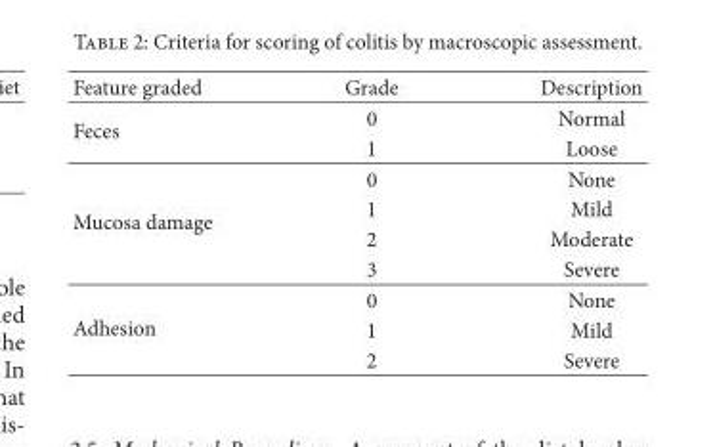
<table><thead><tr><td>Feature graded</td><td>Grade</td><td>Description</td></tr></thead><tbody><tr><td rowspan="2">Feces</td><td>0</td><td>Normal</td></tr><tr><td>1</td><td>Loose</td></tr><tr><td rowspan="4">Mucosa damage</td><td>0</td><td>None</td></tr><tr><td>1</td><td>Mild</td></tr><tr><td>2</td><td>Moderate</td></tr><tr><td>3</td><td>Severe</td></tr><tr><td rowspan="3">Adhesion</td><td>0</td><td>None</td></tr><tr><td>1</td><td>Mild</td></tr><tr><td>2</td><td>Severe</td></tr></tbody></table>